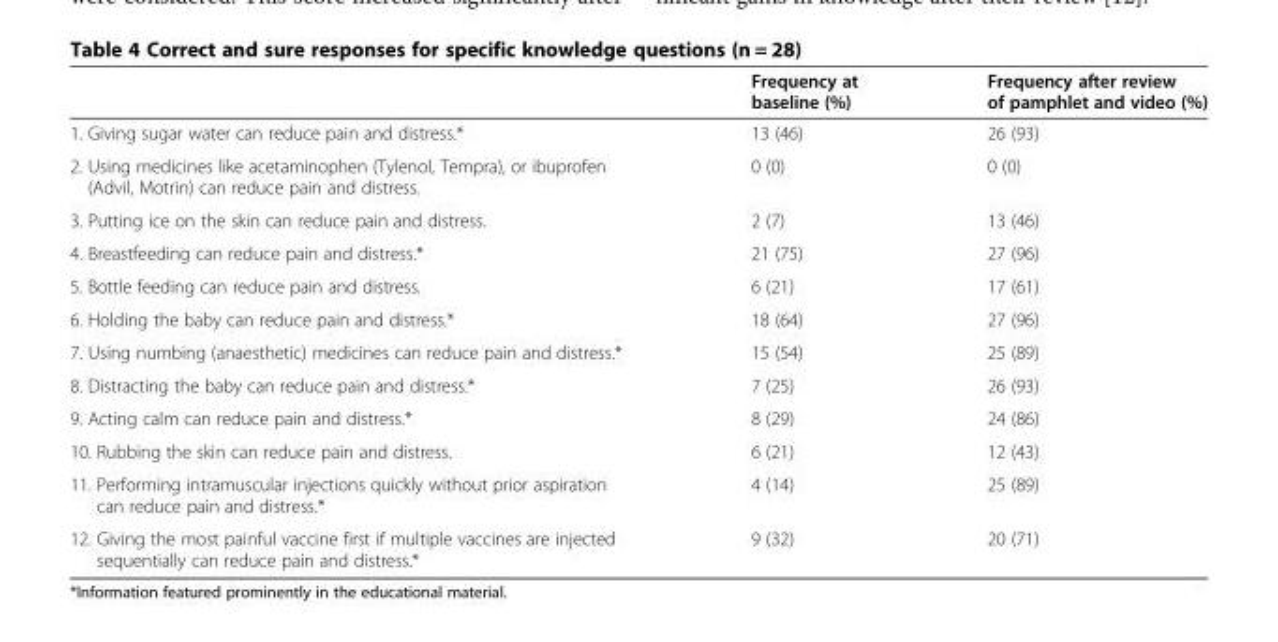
<table><thead><tr><td></td><td>Frequency at baseline (%)</td><td>Frequency after review of pamphlet and video (%)</td></tr></thead><tbody><tr><td>1. Giving sugar water can reduce pain and distress.*</td><td>13 (46)</td><td>26 (93)</td></tr><tr><td>2. Using medicines like acetaminophen (Tylenol, Tempra), or ibuprofen (Advil, Motrin) can reduce pain and distress.</td><td>0 (0)</td><td>0 (0)</td></tr><tr><td>3. Putting ice on the skin can reduce pain and distress.</td><td>2 (7)</td><td>13 (46)</td></tr><tr><td>4. Breastfeeding can reduce pain and distress.*</td><td>21 (75)</td><td>27 (96)</td></tr><tr><td>5. Bottle feeding can reduce pain and distress.</td><td>6 (21)</td><td>17 (61)</td></tr><tr><td>6. Holding the baby can reduce pain and distress.*</td><td>18 (64)</td><td>27 (96)</td></tr><tr><td>7. Using numbing (anaesthetic) medicines can reduce pain and distress.*</td><td>15 (54)</td><td>25 (89)</td></tr><tr><td>8. Distracting the baby can reduce pain and distress.*</td><td>7 (25)</td><td>26 (93)</td></tr><tr><td>9. Acting calm can reduce pain and distress.*</td><td>8 (29)</td><td>24 (86)</td></tr><tr><td>10. Rubbing the skin can reduce pain and distress.</td><td>6 (21)</td><td>12 (43)</td></tr><tr><td>11. Performing intramuscular injections quickly without prior aspiration can reduce pain and distress.*</td><td>4 (14)</td><td>25 (89)</td></tr><tr><td>12. Giving the most painful vaccine first if multiple vaccines are injected sequentially can reduce pain and distress.*</td><td>9 (32)</td><td>20 (71)</td></tr></tbody></table>